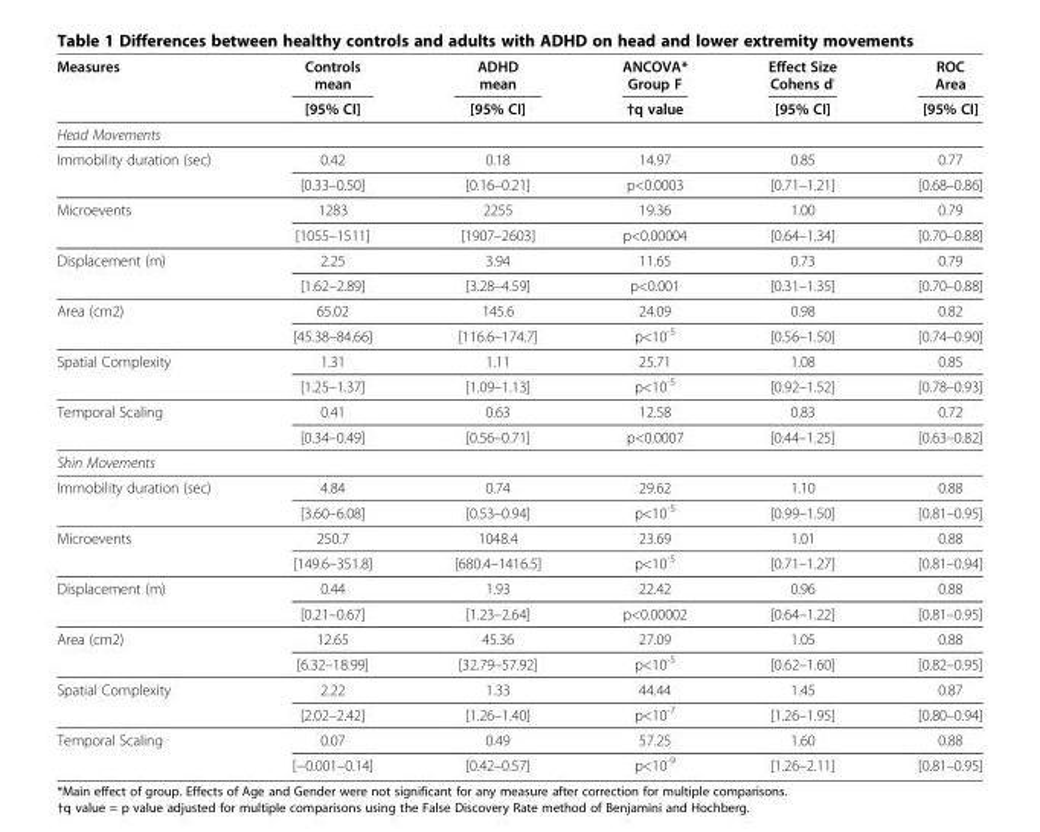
<table><thead><tr><td rowspan="2">Measures</td><td rowspan="2">Controls mean [95% CI]</td><td rowspan="2">ADHD mean [95% CI]</td><td rowspan="2">ANCOVA* Group F †q value</td><td rowspan="2">Effect Size Cohens d&#x27; [95% CI]</td><td rowspan="2">ROC Area [95% CI]</td></tr><tr></tr></thead><tbody><tr><td colspan="6">Head Movements</td></tr><tr><td rowspan="2">Immobility duration (sec)</td><td>0.42</td><td>0.18</td><td>14.97</td><td>0.85</td><td>0.77</td></tr><tr><td>[0.33–0.50]</td><td>[0.16–0.21]</td><td>p&lt;0.0003</td><td>[0.71–1.21]</td><td>[0.68–0.86]</td></tr><tr><td rowspan="2">Microevents</td><td>1283</td><td>2255</td><td>19.36</td><td>1.00</td><td>0.79</td></tr><tr><td>[1055–1511]</td><td>[1907–2603]</td><td>p&lt;0.00004</td><td>[0.64–1.34]</td><td>[0.70–0.88]</td></tr><tr><td rowspan="2">Displacement (m)</td><td>2.25</td><td>3.94</td><td>11.65</td><td>0.73</td><td>0.79</td></tr><tr><td>[1.62–2.89]</td><td>[3.28–4.59]</td><td>p&lt;0.001</td><td>[0.31–1.35]</td><td>[0.70–0.88]</td></tr><tr><td rowspan="2">Area (cm2)</td><td>65.02</td><td>145.6</td><td>24.09</td><td>0.98</td><td>0.82</td></tr><tr><td>[45.38–84.66]</td><td>[116.6–174.7]</td><td>p&lt;10<sup>-5</sup></td><td>[0.56–1.50]</td><td>[0.74–0.90]</td></tr><tr><td rowspan="2">Spatial Complexity</td><td>1.31</td><td>1.11</td><td>25.71</td><td>1.08</td><td>0.85</td></tr><tr><td>[1.25–1.37]</td><td>[1.09–1.13]</td><td>p&lt;10<sup>-5</sup></td><td>[0.92–1.52]</td><td>[0.78–0.93]</td></tr><tr><td rowspan="2">Temporal Scaling</td><td>0.41</td><td>0.63</td><td>12.58</td><td>0.83</td><td>0.72</td></tr><tr><td>[0.34–0.49]</td><td>[0.56–0.71]</td><td>p&lt;0.0007</td><td>[0.44–1.25]</td><td>[0.63–0.82]</td></tr><tr><td colspan="6">Shin Movements</td></tr><tr><td rowspan="2">Immobility duration (sec)</td><td>4.84</td><td>0.74</td><td>29.62</td><td>1.10</td><td>0.88</td></tr><tr><td>[3.60–6.08]</td><td>[0.53–0.94]</td><td>p&lt;10<sup>-5</sup></td><td>[0.99–1.50]</td><td>[0.81–0.95]</td></tr><tr><td rowspan="2">Microevents</td><td>250.7</td><td>1048.4</td><td>23.69</td><td>1.01</td><td>0.88</td></tr><tr><td>[149.6–351.8]</td><td>[680.4–1416.5]</td><td>p&lt;10<sup>-5</sup></td><td>[0.71–1.27]</td><td>[0.81–0.94]</td></tr><tr><td rowspan="2">Displacement (m)</td><td>0.44</td><td>1.93</td><td>22.42</td><td>0.96</td><td>0.88</td></tr><tr><td>[0.21–0.67]</td><td>[1.23–2.64]</td><td>p&lt;0.00002</td><td>[0.64–1.22]</td><td>[0.81–0.95]</td></tr><tr><td rowspan="2">Area (cm2)</td><td>12.65</td><td>45.36</td><td>27.09</td><td>1.05</td><td>0.88</td></tr><tr><td>[6.32–18.99]</td><td>[32.79–57.92]</td><td>p&lt;10<sup>-5</sup></td><td>[0.62–1.60]</td><td>[0.82–0.95]</td></tr><tr><td rowspan="2">Spatial Complexity</td><td>2.22</td><td>1.33</td><td>44.44</td><td>1.45</td><td>0.87</td></tr><tr><td>[2.02–2.42]</td><td>[1.26–1.40]</td><td>p&lt;10<sup>-7</sup></td><td>[1.26–1.95]</td><td>[0.80–0.94]</td></tr><tr><td rowspan="2">Temporal Scaling</td><td>0.07</td><td>0.49</td><td>57.25</td><td>1.60</td><td>0.88</td></tr><tr><td>[−0.001–0.14]</td><td>[0.42–0.57]</td><td>p&lt;10<sup>-9</sup></td><td>[1.26–2.11]</td><td>[0.81–0.95]</td></tr></tbody></table>